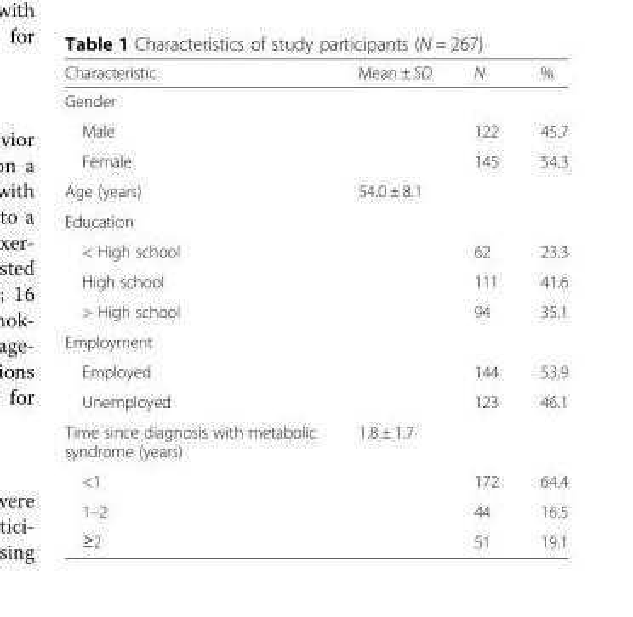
<table><thead><tr><td>Characteristic</td><td>Mean ± SD</td><td>N</td><td>%</td></tr></thead><tbody><tr><td colspan="4">Gender</td></tr><tr><td colspan="2">Male</td><td>122</td><td>45.7</td></tr><tr><td colspan="2">Female</td><td>145</td><td>54.3</td></tr><tr><td>Age (years)</td><td>54.0 ± 8.1</td><td></td><td></td></tr><tr><td colspan="4">Education</td></tr><tr><td colspan="2">&lt; High school</td><td>62</td><td>23.3</td></tr><tr><td colspan="2">High school</td><td>111</td><td>41.6</td></tr><tr><td colspan="2">&gt; High school</td><td>94</td><td>35.1</td></tr><tr><td colspan="4">Employment</td></tr><tr><td colspan="2">Employed</td><td>144</td><td>53.9</td></tr><tr><td colspan="2">Unemployed</td><td>123</td><td>46.1</td></tr><tr><td>Time since diagnosis with metabolic syndrome (years)</td><td>1.8 ± 1.7</td><td></td><td></td></tr><tr><td colspan="2">&lt;1</td><td>172</td><td>64.4</td></tr><tr><td colspan="2">1–2</td><td>44</td><td>16.5</td></tr><tr><td colspan="2">≥2</td><td>51</td><td>19.1</td></tr></tbody></table>